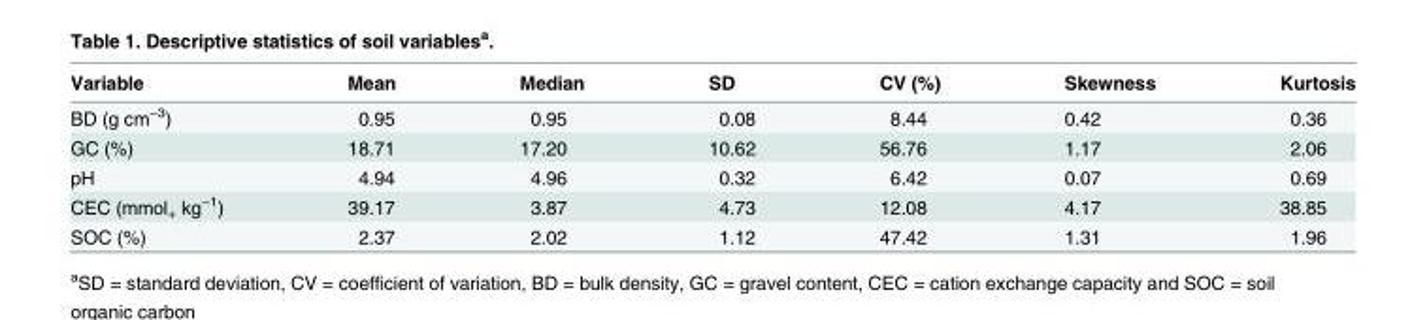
<table><thead><tr><td>Variable</td><td>Mean</td><td>Median</td><td>SD</td><td>CV (%)</td><td>Skewness</td><td>Kurtosis</td></tr></thead><tbody><tr><td>BD (g cm<sup>−3</sup>)</td><td>0.95</td><td>0.95</td><td>0.08</td><td>8.44</td><td>0.42</td><td>0.36</td></tr><tr><td>GC (%)</td><td>18.71</td><td>17.20</td><td>10.62</td><td>56.76</td><td>1.17</td><td>2.06</td></tr><tr><td>pH</td><td>4.94</td><td>4.96</td><td>0.32</td><td>6.42</td><td>0.07</td><td>0.69</td></tr><tr><td>CEC (mmol<sub>+</sub> kg<sup>−1</sup>)</td><td>39.17</td><td>3.87</td><td>4.73</td><td>12.08</td><td>4.17</td><td>38.85</td></tr><tr><td>SOC (%)</td><td>2.37</td><td>2.02</td><td>1.12</td><td>47.42</td><td>1.31</td><td>1.96</td></tr></tbody></table>